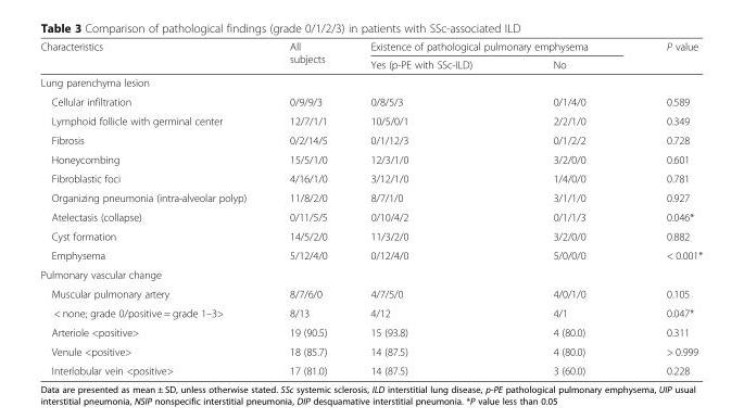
<table><thead><tr><td rowspan="2">Characteristics</td><td rowspan="2">All subjects</td><td colspan="2">Existence of pathological pulmonary emphysema</td><td rowspan="2">P value</td></tr><tr><td>Yes (p-PE with SSc-ILD)</td><td>No</td></tr></thead><tbody><tr><td colspan="5">Lung parenchyma lesion</td></tr><tr><td>Cellular infiltration</td><td>0/9/9/3</td><td>0/8/5/3</td><td>0/1/4/0</td><td>0.589</td></tr><tr><td>Lymphoid follicle with germinal center</td><td>12/7/1/1</td><td>10/5/0/1</td><td>2/2/1/0</td><td>0.349</td></tr><tr><td>Fibrosis</td><td>0/2/14/5</td><td>0/1/12/3</td><td>0/1/2/2</td><td>0.728</td></tr><tr><td>Honeycombing</td><td>15/5/1/0</td><td>12/3/1/0</td><td>3/2/0/0</td><td>0.601</td></tr><tr><td>Fibroblastic foci</td><td>4/16/1/0</td><td>3/12/1/0</td><td>1/4/0/0</td><td>0.781</td></tr><tr><td>Organizing pneumonia (intra-alveolar polyp)</td><td>11/8/2/0</td><td>8/7/1/0</td><td>3/1/1/0</td><td>0.927</td></tr><tr><td>Atelectasis (collapse)</td><td>0/11/5/5</td><td>0/10/4/2</td><td>0/1/1/3</td><td>0.046*</td></tr><tr><td>Cyst formation</td><td>14/5/2/0</td><td>11/3/2/0</td><td>3/2/0/0</td><td>0.882</td></tr><tr><td>Emphysema</td><td>5/12/4/0</td><td>0/12/4/0</td><td>5/0/0/0</td><td>&lt; 0.001*</td></tr><tr><td colspan="5">Pulmonary vascular change</td></tr><tr><td>Muscular pulmonary artery</td><td>8/7/6/0</td><td>4/7/5/0</td><td>4/0/1/0</td><td>0.105</td></tr><tr><td>&lt; none; grade 0/positive = grade 1–3&gt;</td><td>8/13</td><td>4/12</td><td>4/1</td><td>0.047*</td></tr><tr><td>Arteriole &lt;positive&gt;</td><td>19 (90.5)</td><td>15 (93.8)</td><td>4 (80.0)</td><td>0.311</td></tr><tr><td>Venule &lt;positive&gt;</td><td>18 (85.7)</td><td>14 (87.5)</td><td>4 (80.0)</td><td>&gt; 0.999</td></tr><tr><td>Interlobular vein &lt;positive&gt;</td><td>17 (81.0)</td><td>14 (87.5)</td><td>3 (60.0)</td><td>0.228</td></tr></tbody></table>